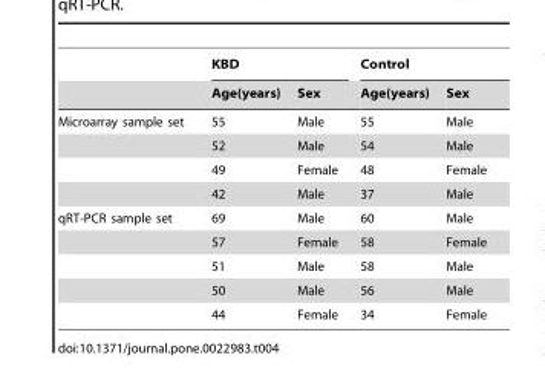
<table><thead><tr><td rowspan="2"></td><td colspan="2">KBD</td><td colspan="2">Control</td></tr><tr><td>Age(years)</td><td>Sex</td><td>Age(years)</td><td>Sex</td></tr></thead><tbody><tr><td rowspan="4">Microarray sample set</td><td>55</td><td>Male</td><td>55</td><td>Male</td></tr><tr><td>52</td><td>Male</td><td>54</td><td>Male</td></tr><tr><td>49</td><td>Female</td><td>48</td><td>Female</td></tr><tr><td>42</td><td>Male</td><td>37</td><td>Male</td></tr><tr><td rowspan="5">qRT-PCR sample set</td><td>69</td><td>Male</td><td>60</td><td>Male</td></tr><tr><td>57</td><td>Female</td><td>58</td><td>Female</td></tr><tr><td>51</td><td>Male</td><td>58</td><td>Male</td></tr><tr><td>50</td><td>Male</td><td>56</td><td>Male</td></tr><tr><td>44</td><td>Female</td><td>34</td><td>Female</td></tr></tbody></table>